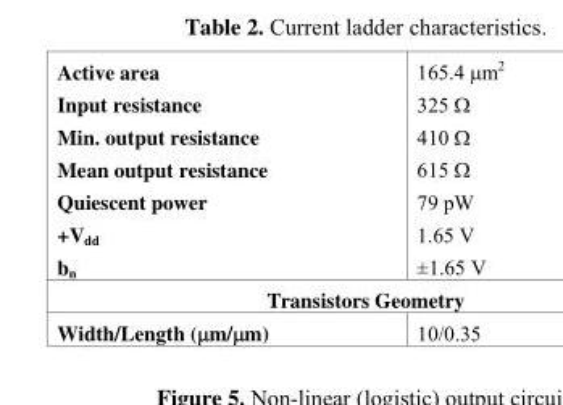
<table><tbody><tr><td>Active area</td><td>165.4 μm<sup>2</sup></td></tr><tr><td>Input resistance</td><td>325 Ω</td></tr><tr><td>Min. output resistance</td><td>410 Ω</td></tr><tr><td>Mean output resistance</td><td>615 Ω</td></tr><tr><td>Quiescent power</td><td>79 pW</td></tr><tr><td>+V<sub>dd</sub></td><td>1.65 V</td></tr><tr><td>b<sub>n</sub></td><td>±1.65 V</td></tr><tr><td colspan="2">Transistors Geometry</td></tr><tr><td>Width/Length (μm/μm)</td><td>10/0.35</td></tr></tbody></table>